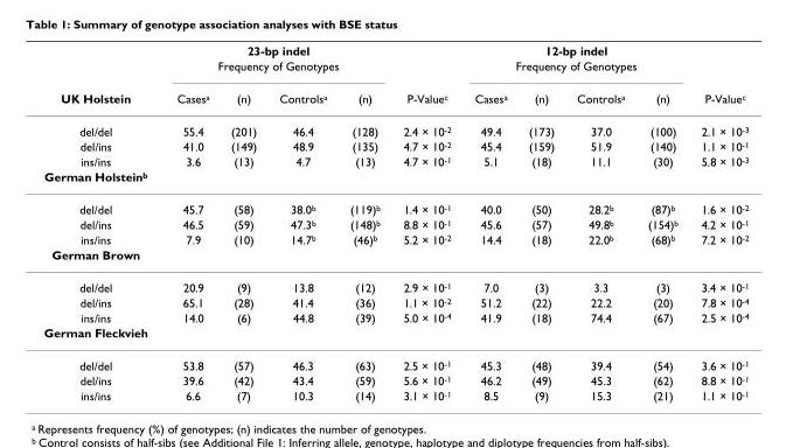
<table><thead><tr><td rowspan="3">UK Holstein</td><td rowspan="2" colspan="4">23-bp indel Frequency of Genotypes</td><td rowspan="3">P-Valuec</td><td rowspan="2" colspan="4">12-bp indel Frequency of Genotypes</td><td rowspan="3">P-Valuec</td></tr><tr></tr><tr><td>Casesa</td><td>(n)</td><td>Controlsa</td><td>(n)</td><td>Casesa</td><td>(n)</td><td>Controlsa</td><td>(n)</td></tr></thead><tbody><tr><td>del/del</td><td>55.4</td><td>(201)</td><td>46.4</td><td>(128)</td><td>2.4 × 10-2</td><td>49.4</td><td>(173)</td><td>37.0</td><td>(100)</td><td>2.1 × 10-3</td></tr><tr><td>del/ins</td><td>41.0</td><td>(149)</td><td>48.9</td><td>(135)</td><td>4.7 × 10-2</td><td>45.4</td><td>(159)</td><td>51.9</td><td>(140)</td><td>1.1 × 10-1</td></tr><tr><td>ins/ins</td><td>3.6</td><td>(13)</td><td>4.7</td><td>(13)</td><td>4.7 × 10-1</td><td>5.1</td><td>(18)</td><td>11.1</td><td>(30)</td><td>5.8 × 10-3</td></tr><tr><td colspan="11">German Holsteinb</td></tr><tr><td>del/del</td><td>45.7</td><td>(58)</td><td>38.0b</td><td>(119)b</td><td>1.4 × 10-1</td><td>40.0</td><td>(50)</td><td>28.2b</td><td>(87)b</td><td>1.6 × 10-2</td></tr><tr><td>del/ins</td><td>46.5</td><td>(59)</td><td>47.3b</td><td>(148)b</td><td>8.8 × 10-1</td><td>45.6</td><td>(57)</td><td>49.8b</td><td>(154)b</td><td>4.2 × 10-1</td></tr><tr><td>ins/ins</td><td>7.9</td><td>(10)</td><td>14.7b</td><td>(46)b</td><td>5.2 × 10-2</td><td>14.4</td><td>(18)</td><td>22.0b</td><td>(68)b</td><td>7.2 × 10-2</td></tr><tr><td colspan="11">German Brown</td></tr><tr><td>del/del</td><td>20.9</td><td>(9)</td><td>13.8</td><td>(12)</td><td>2.9 × 10-1</td><td>7.0</td><td>(3)</td><td>3.3</td><td>(3)</td><td>3.4 × 10-1</td></tr><tr><td>del/ins</td><td>65.1</td><td>(28)</td><td>41.4</td><td>(36)</td><td>1.1 × 10-2</td><td>51.2</td><td>(22)</td><td>22.2</td><td>(20)</td><td>7.8 × 10-4</td></tr><tr><td>ins/ins</td><td>14.0</td><td>(6)</td><td>44.8</td><td>(39)</td><td>5.0 × 10-4</td><td>41.9</td><td>(18)</td><td>74.4</td><td>(67)</td><td>2.5 × 10-4</td></tr><tr><td colspan="11">German Fleckvieh</td></tr><tr><td>del/del</td><td>53.8</td><td>(57)</td><td>46.3</td><td>(63)</td><td>2.5 × 10-1</td><td>45.3</td><td>(48)</td><td>39.4</td><td>(54)</td><td>3.6 × 10-1</td></tr><tr><td>del/ins</td><td>39.6</td><td>(42)</td><td>43.4</td><td>(59)</td><td>5.6 × 10-1</td><td>46.2</td><td>(49)</td><td>45.3</td><td>(62)</td><td>8.8 × 10-1</td></tr><tr><td>ins/ins</td><td>6.6</td><td>(7)</td><td>10.3</td><td>(14)</td><td>3.1 × 10-1</td><td>8.5</td><td>(9)</td><td>15.3</td><td>(21)</td><td>1.1 × 10-1</td></tr></tbody></table>